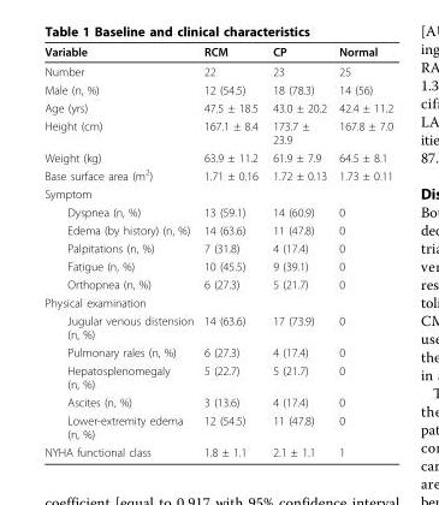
<table><thead><tr><td>Variable</td><td>RCM</td><td>CP</td><td>Normal</td></tr></thead><tbody><tr><td>Number</td><td>22</td><td>23</td><td>25</td></tr><tr><td>Male (n, %)</td><td>12 (54.5)</td><td>18 (78.3)</td><td>14 (56)</td></tr><tr><td>Age (yrs)</td><td>47.5 ± 18.5</td><td>43.0 ± 20.2</td><td>42.4 ± 11.2</td></tr><tr><td>Height (cm)</td><td>167.1 ± 8.4</td><td>173.7 ± 23.9</td><td>167.8 ± 7.0</td></tr><tr><td>Weight (kg)</td><td>63.9 ± 11.2</td><td>61.9 ± 7.9</td><td>64.5 ± 8.1</td></tr><tr><td>Base surface area (m<sup>2</sup>)</td><td>1.71 ± 0.16</td><td>1.72 ± 0.13</td><td>1.73 ± 0.11</td></tr><tr><td colspan="4">Symptom</td></tr><tr><td>Dyspnea (n, %)</td><td>13 (59.1)</td><td>14 (60.9)</td><td>0</td></tr><tr><td>Edema (by history) (n, %)</td><td>14 (63.6)</td><td>11 (47.8)</td><td>0</td></tr><tr><td>Palpitations (n, %)</td><td>7 (31.8)</td><td>4 (17.4)</td><td>0</td></tr><tr><td>Fatigue (n, %)</td><td>10 (45.5)</td><td>9 (39.1)</td><td>0</td></tr><tr><td>Orthopnea (n, %)</td><td>6 (27.3)</td><td>5 (21.7)</td><td>0</td></tr><tr><td colspan="4">Physical examination</td></tr><tr><td>Jugular venous distension (n, %)</td><td>14 (63.6)</td><td>17 (73.9)</td><td>0</td></tr><tr><td>Pulmonary rales (n, %)</td><td>6 (27.3)</td><td>4 (17.4)</td><td>0</td></tr><tr><td>Hepatosplenomegaly (n, %)</td><td>5 (22.7)</td><td>5 (21.7)</td><td>0</td></tr><tr><td>Ascites (n, %)</td><td>3 (13.6)</td><td>4 (17.4)</td><td>0</td></tr><tr><td>Lower-extremity edema (n, %)</td><td>12 (54.5)</td><td>11 (47.8)</td><td>0</td></tr><tr><td>NYHA functional class</td><td>1.8 ± 1.1</td><td>2.1 ± 1.1</td><td>1</td></tr></tbody></table>